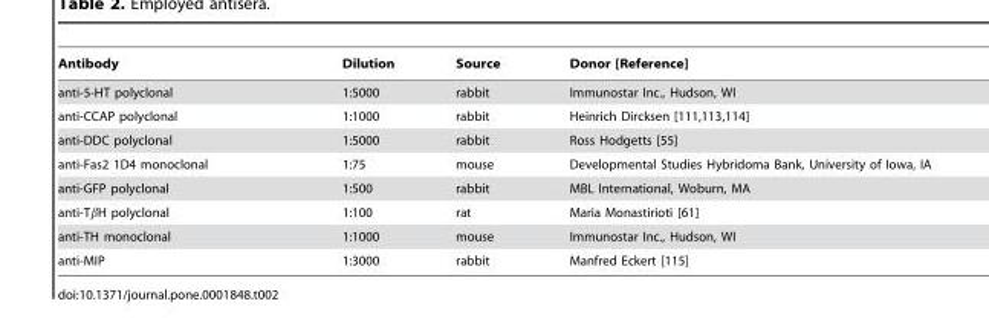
<table><thead><tr><td>Antibody</td><td>Dilution</td><td>Source</td><td>Donor [Reference]</td></tr></thead><tbody><tr><td>anti-5-HT polyclonal</td><td>1:5000</td><td>rabbit</td><td>Immunostar Inc., Hudson, WI</td></tr><tr><td>anti-CCAP polyclonal</td><td>1:1000</td><td>rabbit</td><td>Heinrich Dircksen [111,113,114]</td></tr><tr><td>anti-DDC polyclonal</td><td>1:5000</td><td>rabbit</td><td>Ross Hodgetts [55]</td></tr><tr><td>anti-Fas2 1D4 monoclonal</td><td>1:75</td><td>mouse</td><td>Developmental Studies Hybridoma Bank, University of Iowa, IA</td></tr><tr><td>anti-GFP polyclonal</td><td>1:500</td><td>rabbit</td><td>MBL International, Woburn, MA</td></tr><tr><td>anti-TβH polyclonal</td><td>1:100</td><td>rat</td><td>Maria Monastirioti [61]</td></tr><tr><td>anti-TH monoclonal</td><td>1:1000</td><td>mouse</td><td>Immunostar Inc., Hudson, WI</td></tr><tr><td>anti-MIP</td><td>1:3000</td><td>rabbit</td><td>Manfred Eckert [115]</td></tr></tbody></table>